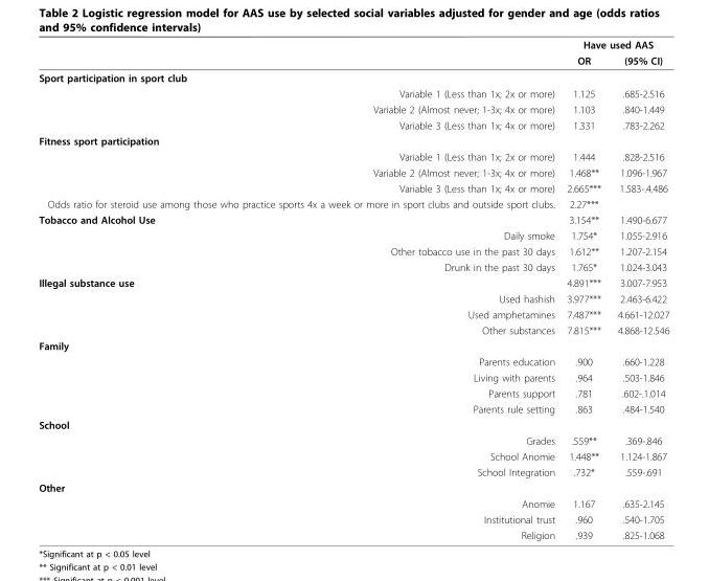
<table><thead><tr><td rowspan="2"></td><td colspan="2">Have used AAS</td></tr><tr><td>OR</td><td>(95% CI)</td></tr></thead><tbody><tr><td colspan="3">Sport participation in sport club</td></tr><tr><td>Variable 1 (Less than 1x; 2x or more)</td><td>1.125</td><td>.685-2.516</td></tr><tr><td>Variable 2 (Almost never; 1-3x; 4x or more)</td><td>1.103</td><td>.840-1.449</td></tr><tr><td>Variable 3 (Less than 1x; 4x or more)</td><td>1.331</td><td>.783-2.262</td></tr><tr><td colspan="3">Fitness sport participation</td></tr><tr><td>Variable 1 (Less than 1x; 2x or more)</td><td>1.444</td><td>.828-2.516</td></tr><tr><td>Variable 2 (Almost never; 1-3x; 4x or more)</td><td>1.468**</td><td>1.096-1.967</td></tr><tr><td>Variable 3 (Less than 1x; 4x or more)</td><td>2.665***</td><td>1.583-.4.486</td></tr><tr><td>Odds ratio for steroid use among those who practice sports 4x a week or more in sport clubs and outside sport clubs.</td><td>2.27***</td><td></td></tr><tr><td>Tobacco and Alcohol Use</td><td>3.154**</td><td>1.490-6.677</td></tr><tr><td>Daily smoke</td><td>1.754*</td><td>1.055-2.916</td></tr><tr><td>Other tobacco use in the past 30 days</td><td>1.612**</td><td>1.207-2.154</td></tr><tr><td>Drunk in the past 30 days</td><td>1.765*</td><td>1.024-3.043</td></tr><tr><td>Illegal substance use</td><td>4.891***</td><td>3.007-7.953</td></tr><tr><td>Used hashish</td><td>3.977***</td><td>2.463-6.422</td></tr><tr><td>Used amphetamines</td><td>7.487***</td><td>4.661-12.027</td></tr><tr><td>Other substances</td><td>7.815***</td><td>4.868-12.546</td></tr><tr><td colspan="3">Family</td></tr><tr><td>Parents education</td><td>.900</td><td>.660-1.228</td></tr><tr><td>Living with parents</td><td>.964</td><td>.503-1.846</td></tr><tr><td>Parents support</td><td>.781</td><td>.602-.1.014</td></tr><tr><td>Parents rule setting</td><td>.863</td><td>.484-1.540</td></tr><tr><td colspan="3">School</td></tr><tr><td>Grades</td><td>.559**</td><td>.369-.846</td></tr><tr><td>School Anomie</td><td>1.448**</td><td>1.124-1.867</td></tr><tr><td>School Integration</td><td>.732*</td><td>.559-.691</td></tr><tr><td colspan="3">Other</td></tr><tr><td>Anomie</td><td>1.167</td><td>.635-2.145</td></tr><tr><td>Institutional trust</td><td>.960</td><td>.540-1.705</td></tr><tr><td>Religion</td><td>.939</td><td>.825-1.068</td></tr></tbody></table>